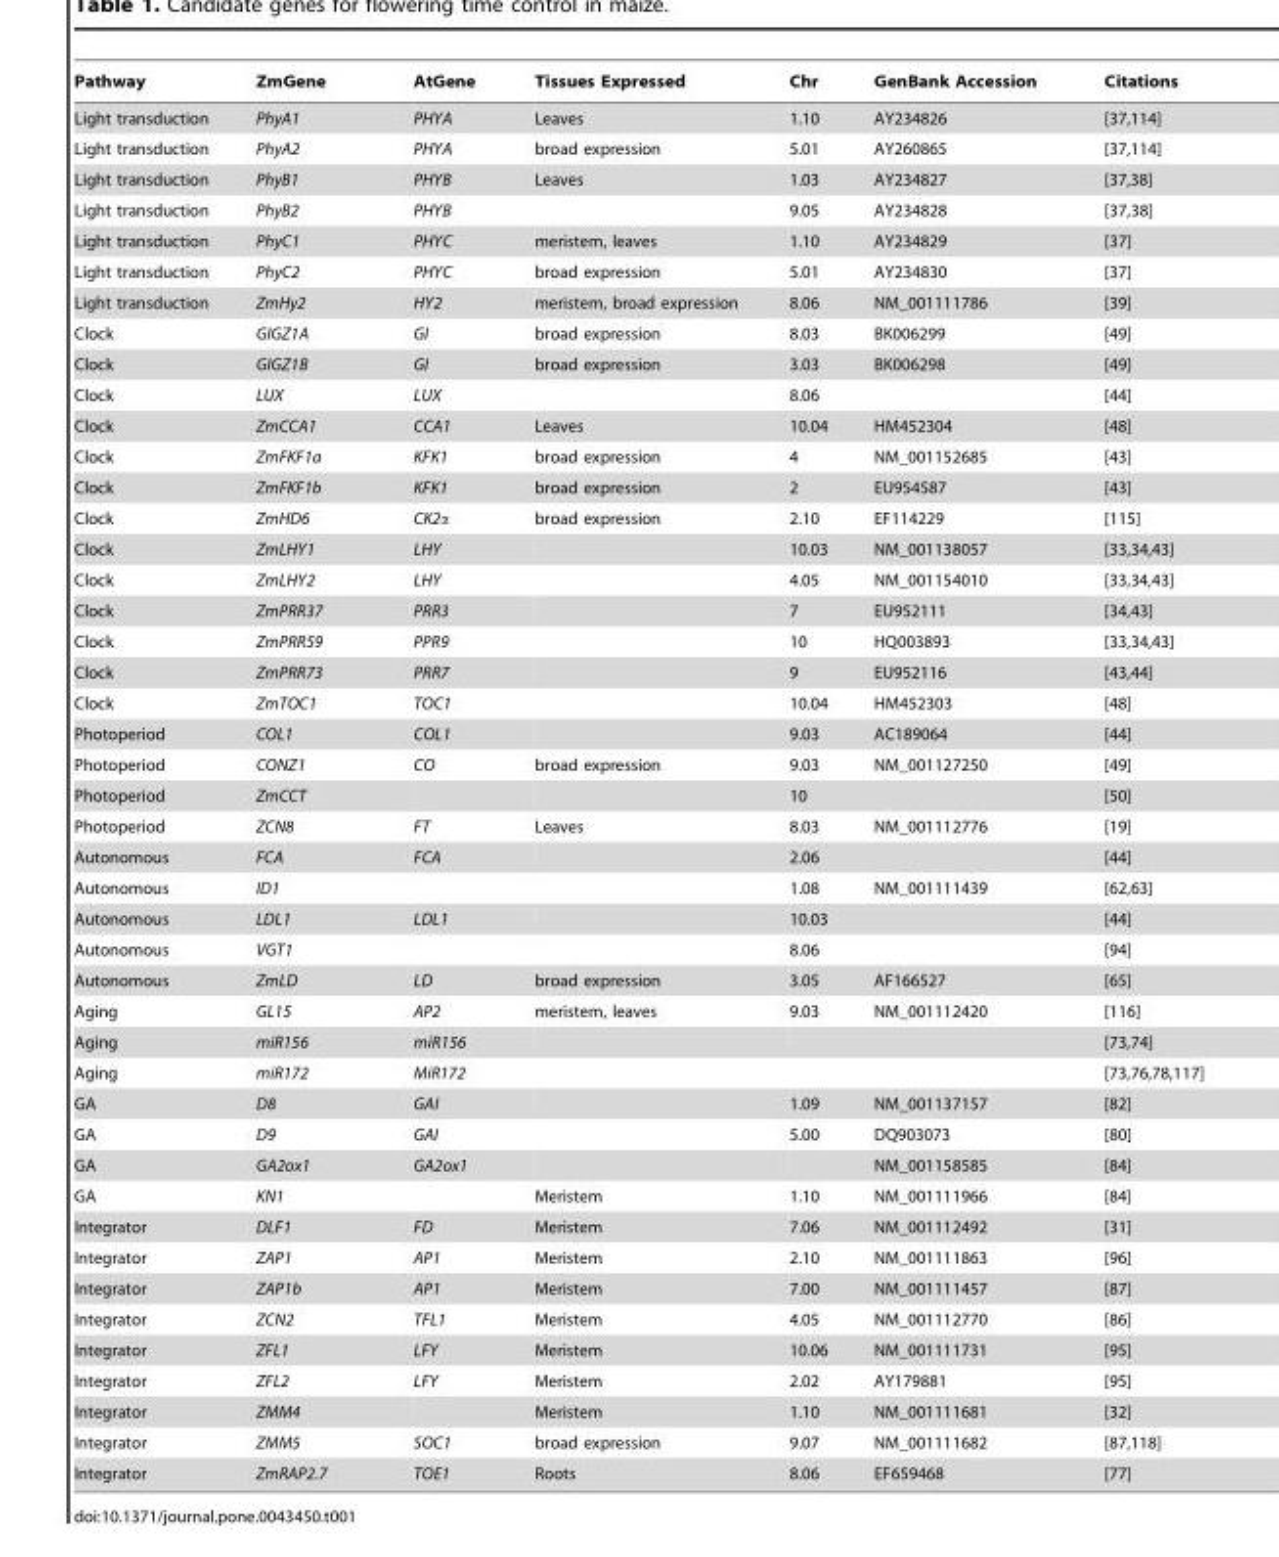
<table><thead><tr><td>Pathway</td><td>ZmGene</td><td>AtGene</td><td>Tissues Expressed</td><td>Chr</td><td>GenBank Accession</td><td>Citations</td></tr></thead><tbody><tr><td>Light transduction</td><td>PhyA1</td><td>PHYA</td><td>Leaves</td><td>1.10</td><td>AY234826</td><td>[37,114]</td></tr><tr><td>Light transduction</td><td>PhyA2</td><td>PHYA</td><td>broad expression</td><td>5.01</td><td>AY260865</td><td>[37,114]</td></tr><tr><td>Light transduction</td><td>PhyB1</td><td>PHYB</td><td>Leaves</td><td>1.03</td><td>AY234827</td><td>[37,38]</td></tr><tr><td>Light transduction</td><td>PhyB2</td><td>PHYB</td><td></td><td>9.05</td><td>AY234828</td><td>[37,38]</td></tr><tr><td>Light transduction</td><td>PhyC1</td><td>PHYC</td><td>meristem, leaves</td><td>1.10</td><td>AY234829</td><td>[37]</td></tr><tr><td>Light transduction</td><td>PhyC2</td><td>PHYC</td><td>broad expression</td><td>5.01</td><td>AY234830</td><td>[37]</td></tr><tr><td>Light transduction</td><td>ZmHy2</td><td>HY2</td><td>meristem, broad expression</td><td>8.06</td><td>NM_001111786</td><td>[39]</td></tr><tr><td>Clock</td><td>GIGZ1A</td><td>GI</td><td>broad expression</td><td>8.03</td><td>BK006299</td><td>[49]</td></tr><tr><td>Clock</td><td>GIGZ1B</td><td>GI</td><td>broad expression</td><td>3.03</td><td>BK006298</td><td>[49]</td></tr><tr><td>Clock</td><td>LUX</td><td>LUX</td><td></td><td>8.06</td><td></td><td>[44]</td></tr><tr><td>Clock</td><td>ZmCCA1</td><td>CCA1</td><td>Leaves</td><td>10.04</td><td>HM452304</td><td>[48]</td></tr><tr><td>Clock</td><td>ZmFKF1a</td><td>KFK1</td><td>broad expression</td><td>4</td><td>NM_001152685</td><td>[43]</td></tr><tr><td>Clock</td><td>ZmFKF1b</td><td>KFK1</td><td>broad expression</td><td>2</td><td>EU954587</td><td>[43]</td></tr><tr><td>Clock</td><td>ZmHD6</td><td>CK2α</td><td>broad expression</td><td>2.10</td><td>EF114229</td><td>[115]</td></tr><tr><td>Clock</td><td>ZmLHY1</td><td>LHY</td><td></td><td>10.03</td><td>NM_001138057</td><td>[33,34,43]</td></tr><tr><td>Clock</td><td>ZmLHY2</td><td>LHY</td><td></td><td>4.05</td><td>NM_001154010</td><td>[33,34,43]</td></tr><tr><td>Clock</td><td>ZmPRR37</td><td>PRR3</td><td></td><td>7</td><td>EU952111</td><td>[34,43]</td></tr><tr><td>Clock</td><td>ZmPRR59</td><td>PPR9</td><td></td><td>10</td><td>HQ003893</td><td>[33,34,43]</td></tr><tr><td>Clock</td><td>ZmPRR73</td><td>PRR7</td><td></td><td>9</td><td>EU952116</td><td>[43,44]</td></tr><tr><td>Clock</td><td>ZmTOC1</td><td>TOC1</td><td></td><td>10.04</td><td>HM452303</td><td>[48]</td></tr><tr><td>Photoperiod</td><td>COL1</td><td>COL1</td><td></td><td>9.03</td><td>AC189064</td><td>[44]</td></tr><tr><td>Photoperiod</td><td>CONZ1</td><td>CO</td><td>broad expression</td><td>9.03</td><td>NM_001127250</td><td>[49]</td></tr><tr><td>Photoperiod</td><td>ZmCCT</td><td></td><td></td><td>10</td><td></td><td>[50]</td></tr><tr><td>Photoperiod</td><td>ZCN8</td><td>FT</td><td>Leaves</td><td>8.03</td><td>NM_001112776</td><td>[19]</td></tr><tr><td>Autonomous</td><td>FCA</td><td>FCA</td><td></td><td>2.06</td><td></td><td>[44]</td></tr><tr><td>Autonomous</td><td>ID1</td><td></td><td></td><td>1.08</td><td>NM_001111439</td><td>[62,63]</td></tr><tr><td>Autonomous</td><td>LDL1</td><td>LDL1</td><td></td><td>10.03</td><td></td><td>[44]</td></tr><tr><td>Autonomous</td><td>VGT1</td><td></td><td></td><td>8.06</td><td></td><td>[94]</td></tr><tr><td>Autonomous</td><td>ZmLD</td><td>LD</td><td>broad expression</td><td>3.05</td><td>AF166527</td><td>[65]</td></tr><tr><td>Aging</td><td>GL15</td><td>AP2</td><td>meristem, leaves</td><td>9.03</td><td>NM_001112420</td><td>[116]</td></tr><tr><td>Aging</td><td>miR156</td><td>miR156</td><td></td><td></td><td></td><td>[73,74]</td></tr><tr><td>Aging</td><td>miR172</td><td>MiR172</td><td></td><td></td><td></td><td>[73,76,78,117]</td></tr><tr><td>GA</td><td>D8</td><td>GAI</td><td></td><td>1.09</td><td>NM_001137157</td><td>[82]</td></tr><tr><td>GA</td><td>D9</td><td>GAI</td><td></td><td>5.00</td><td>DQ903073</td><td>[80]</td></tr><tr><td>GA</td><td>GA2ox1</td><td>GA2ox1</td><td></td><td></td><td>NM_001158585</td><td>[84]</td></tr><tr><td>GA</td><td>KN1</td><td></td><td>Meristem</td><td>1.10</td><td>NM_001111966</td><td>[84]</td></tr><tr><td>Integrator</td><td>DLF1</td><td>FD</td><td>Meristem</td><td>7.06</td><td>NM_001112492</td><td>[31]</td></tr><tr><td>Integrator</td><td>ZAP1</td><td>AP1</td><td>Meristem</td><td>2.10</td><td>NM_001111863</td><td>[96]</td></tr><tr><td>Integrator</td><td>ZAP1b</td><td>AP1</td><td>Meristem</td><td>7.00</td><td>NM_001111457</td><td>[87]</td></tr><tr><td>Integrator</td><td>ZCN2</td><td>TFL1</td><td>Meristem</td><td>4.05</td><td>NM_001112770</td><td>[86]</td></tr><tr><td>Integrator</td><td>ZFL1</td><td>LFY</td><td>Meristem</td><td>10.06</td><td>NM_001111731</td><td>[95]</td></tr><tr><td>Integrator</td><td>ZFL2</td><td>LFY</td><td>Meristem</td><td>2.02</td><td>AY179881</td><td>[95]</td></tr><tr><td>Integrator</td><td>ZMM4</td><td></td><td>Meristem</td><td>1.10</td><td>NM_001111681</td><td>[32]</td></tr><tr><td>Integrator</td><td>ZMM5</td><td>SOC1</td><td>broad expression</td><td>9.07</td><td>NM_001111682</td><td>[87,118]</td></tr><tr><td>Integrator</td><td>ZmRAP2.7</td><td>TOE1</td><td>Roots</td><td>8.06</td><td>EF659468</td><td>[77]</td></tr></tbody></table>